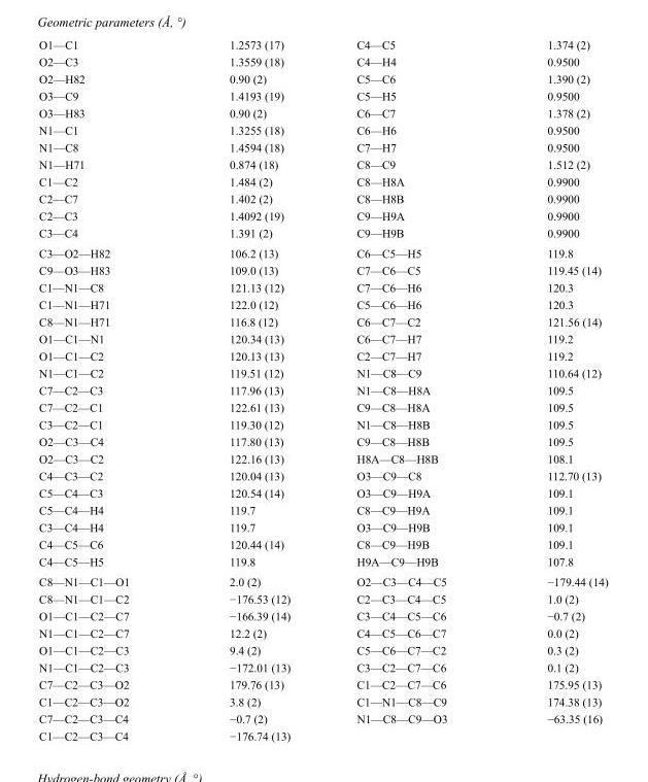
<table><tbody><tr><td>O1—C1</td><td>1.2573 (17)</td><td>C4—C5</td><td>1.374 (2)</td></tr><tr><td>O2—C3</td><td>1.3559 (18)</td><td>C4—H4</td><td>0.9500</td></tr><tr><td>O2—H82</td><td>0.90 (2)</td><td>C5—C6</td><td>1.390 (2)</td></tr><tr><td>O3—C9</td><td>1.4193 (19)</td><td>C5—H5</td><td>0.9500</td></tr><tr><td>O3—H83</td><td>0.90 (2)</td><td>C6—C7</td><td>1.378 (2)</td></tr><tr><td>N1—C1</td><td>1.3255 (18)</td><td>C6—H6</td><td>0.9500</td></tr><tr><td>N1—C8</td><td>1.4594 (18)</td><td>C7—H7</td><td>0.9500</td></tr><tr><td>N1—H71</td><td>0.874 (18)</td><td>C8—C9</td><td>1.512 (2)</td></tr><tr><td>C1—C2</td><td>1.484 (2)</td><td>C8—H8A</td><td>0.9900</td></tr><tr><td>C2—C7</td><td>1.402 (2)</td><td>C8—H8B</td><td>0.9900</td></tr><tr><td>C2—C3</td><td>1.4092 (19)</td><td>C9—H9A</td><td>0.9900</td></tr><tr><td>C3—C4</td><td>1.391 (2)</td><td>C9—H9B</td><td>0.9900</td></tr><tr><td>C3—O2—H82</td><td>106.2 (13)</td><td>C6—C5—H5</td><td>119.8</td></tr><tr><td>C9—O3—H83</td><td>109.0 (13)</td><td>C7—C6—C5</td><td>119.45 (14)</td></tr><tr><td>C1—N1—C8</td><td>121.13 (12)</td><td>C7—C6—H6</td><td>120.3</td></tr><tr><td>C1—N1—H71</td><td>122.0 (12)</td><td>C5—C6—H6</td><td>120.3</td></tr><tr><td>C8—N1—H71</td><td>116.8 (12)</td><td>C6—C7—C2</td><td>121.56 (14)</td></tr><tr><td>O1—C1—N1</td><td>120.34 (13)</td><td>C6—C7—H7</td><td>119.2</td></tr><tr><td>O1—C1—C2</td><td>120.13 (13)</td><td>C2—C7—H7</td><td>119.2</td></tr><tr><td>N1—C1—C2</td><td>119.51 (12)</td><td>N1—C8—C9</td><td>110.64 (12)</td></tr><tr><td>C7—C2—C3</td><td>117.96 (13)</td><td>N1—C8—H8A</td><td>109.5</td></tr><tr><td>C7—C2—C1</td><td>122.61 (13)</td><td>C9—C8—H8A</td><td>109.5</td></tr><tr><td>C3—C2—C1</td><td>119.30 (12)</td><td>N1—C8—H8B</td><td>109.5</td></tr><tr><td>O2—C3—C4</td><td>117.80 (13)</td><td>C9—C8—H8B</td><td>109.5</td></tr><tr><td>O2—C3—C2</td><td>122.16 (13)</td><td>H8A—C8—H8B</td><td>108.1</td></tr><tr><td>C4—C3—C2</td><td>120.04 (13)</td><td>O3—C9—C8</td><td>112.70 (13)</td></tr><tr><td>C5—C4—C3</td><td>120.54 (14)</td><td>O3—C9—H9A</td><td>109.1</td></tr><tr><td>C5—C4—H4</td><td>119.7</td><td>C8—C9—H9A</td><td>109.1</td></tr><tr><td>C3—C4—H4</td><td>119.7</td><td>O3—C9—H9B</td><td>109.1</td></tr><tr><td>C4—C5—C6</td><td>120.44 (14)</td><td>C8—C9—H9B</td><td>109.1</td></tr><tr><td>C4—C5—H5</td><td>119.8</td><td>H9A—C9—H9B</td><td>107.8</td></tr><tr><td>C8—N1—C1—O1</td><td>2.0 (2)</td><td>O2—C3—C4—C5</td><td>−179.44 (14)</td></tr><tr><td>C8—N1—C1—C2</td><td>−176.53 (12)</td><td>C2—C3—C4—C5</td><td>1.0 (2)</td></tr><tr><td>O1—C1—C2—C7</td><td>−166.39 (14)</td><td>C3—C4—C5—C6</td><td>−0.7 (2)</td></tr><tr><td>N1—C1—C2—C7</td><td>12.2 (2)</td><td>C4—C5—C6—C7</td><td>0.0 (2)</td></tr><tr><td>O1—C1—C2—C3</td><td>9.4 (2)</td><td>C5—C6—C7—C2</td><td>0.3 (2)</td></tr><tr><td>N1—C1—C2—C3</td><td>−172.01 (13)</td><td>C3—C2—C7—C6</td><td>0.1 (2)</td></tr><tr><td>C7—C2—C3—O2</td><td>179.76 (13)</td><td>C1—C2—C7—C6</td><td>175.95 (13)</td></tr><tr><td>C1—C2—C3—O2</td><td>3.8 (2)</td><td>C1—N1—C8—C9</td><td>174.38 (13)</td></tr><tr><td>C7—C2—C3—C4</td><td>−0.7 (2)</td><td>N1—C8—C9—O3</td><td>−63.35 (16)</td></tr><tr><td>C1—C2—C3—C4</td><td>−176.74 (13)</td><td></td><td></td></tr></tbody></table>